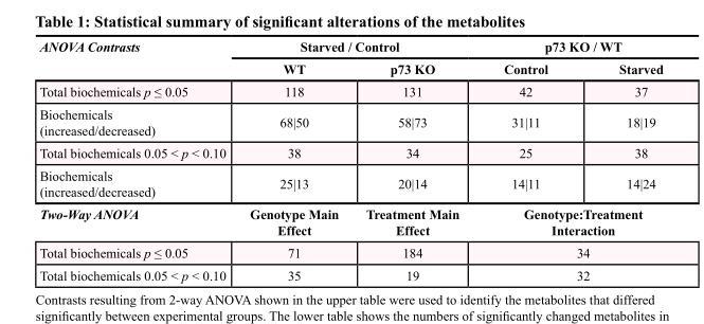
<table><thead><tr><td rowspan="2">ANOVA Contrasts</td><td colspan="2">Starved / Control</td><td colspan="2">p73 KO / WT</td></tr><tr><td>WT</td><td>p73 KO</td><td>Control</td><td>Starved</td></tr></thead><tbody><tr><td>Total biochemicals p ≤ 0.05</td><td>118</td><td>131</td><td>42</td><td>37</td></tr><tr><td>Biochemicals (increased/decreased)</td><td>68|50</td><td>58|73</td><td>31|11</td><td>18|19</td></tr><tr><td>Total biochemicals 0.05 &lt; p &lt; 0.10</td><td>38</td><td>34</td><td>25</td><td>38</td></tr><tr><td>Biochemicals (increased/decreased)</td><td>25|13</td><td>20|14</td><td>14|11</td><td>14|24</td></tr><tr><td>Two-Way ANOVA</td><td>Genotype Main Effect</td><td>Treatment Main Effect</td><td colspan="2">Genotype:Treatment Interaction</td></tr><tr><td>Total biochemicals p ≤ 0.05</td><td>71</td><td>184</td><td colspan="2">34</td></tr><tr><td>Total biochemicals 0.05 &lt; p &lt; 0.10</td><td>35</td><td>19</td><td colspan="2">32</td></tr></tbody></table>